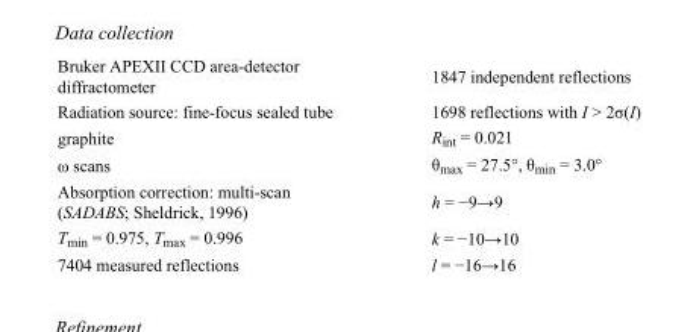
<table><tbody><tr><td>Bruker APEXII CCD area-detector diffractometer</td><td>1847 independent reflections</td></tr><tr><td>Radiation source: fine-focus sealed tube</td><td>1698 reflections with I &gt; 2σ(I)</td></tr><tr><td>graphite</td><td>R<sub>int</sub> = 0.021</td></tr><tr><td>ω scans</td><td>θ<sub>max</sub> = 27.5°, θ<sub>min</sub> = 3.0°</td></tr><tr><td>Absorption correction: multi-scan (SADABS; Sheldrick, 1996)</td><td>h = −9→9</td></tr><tr><td>T<sub>min</sub> = 0.975, T<sub>max</sub> = 0.996</td><td>k = −10→10</td></tr><tr><td>7404 measured reflections</td><td>l = −16→16</td></tr></tbody></table>